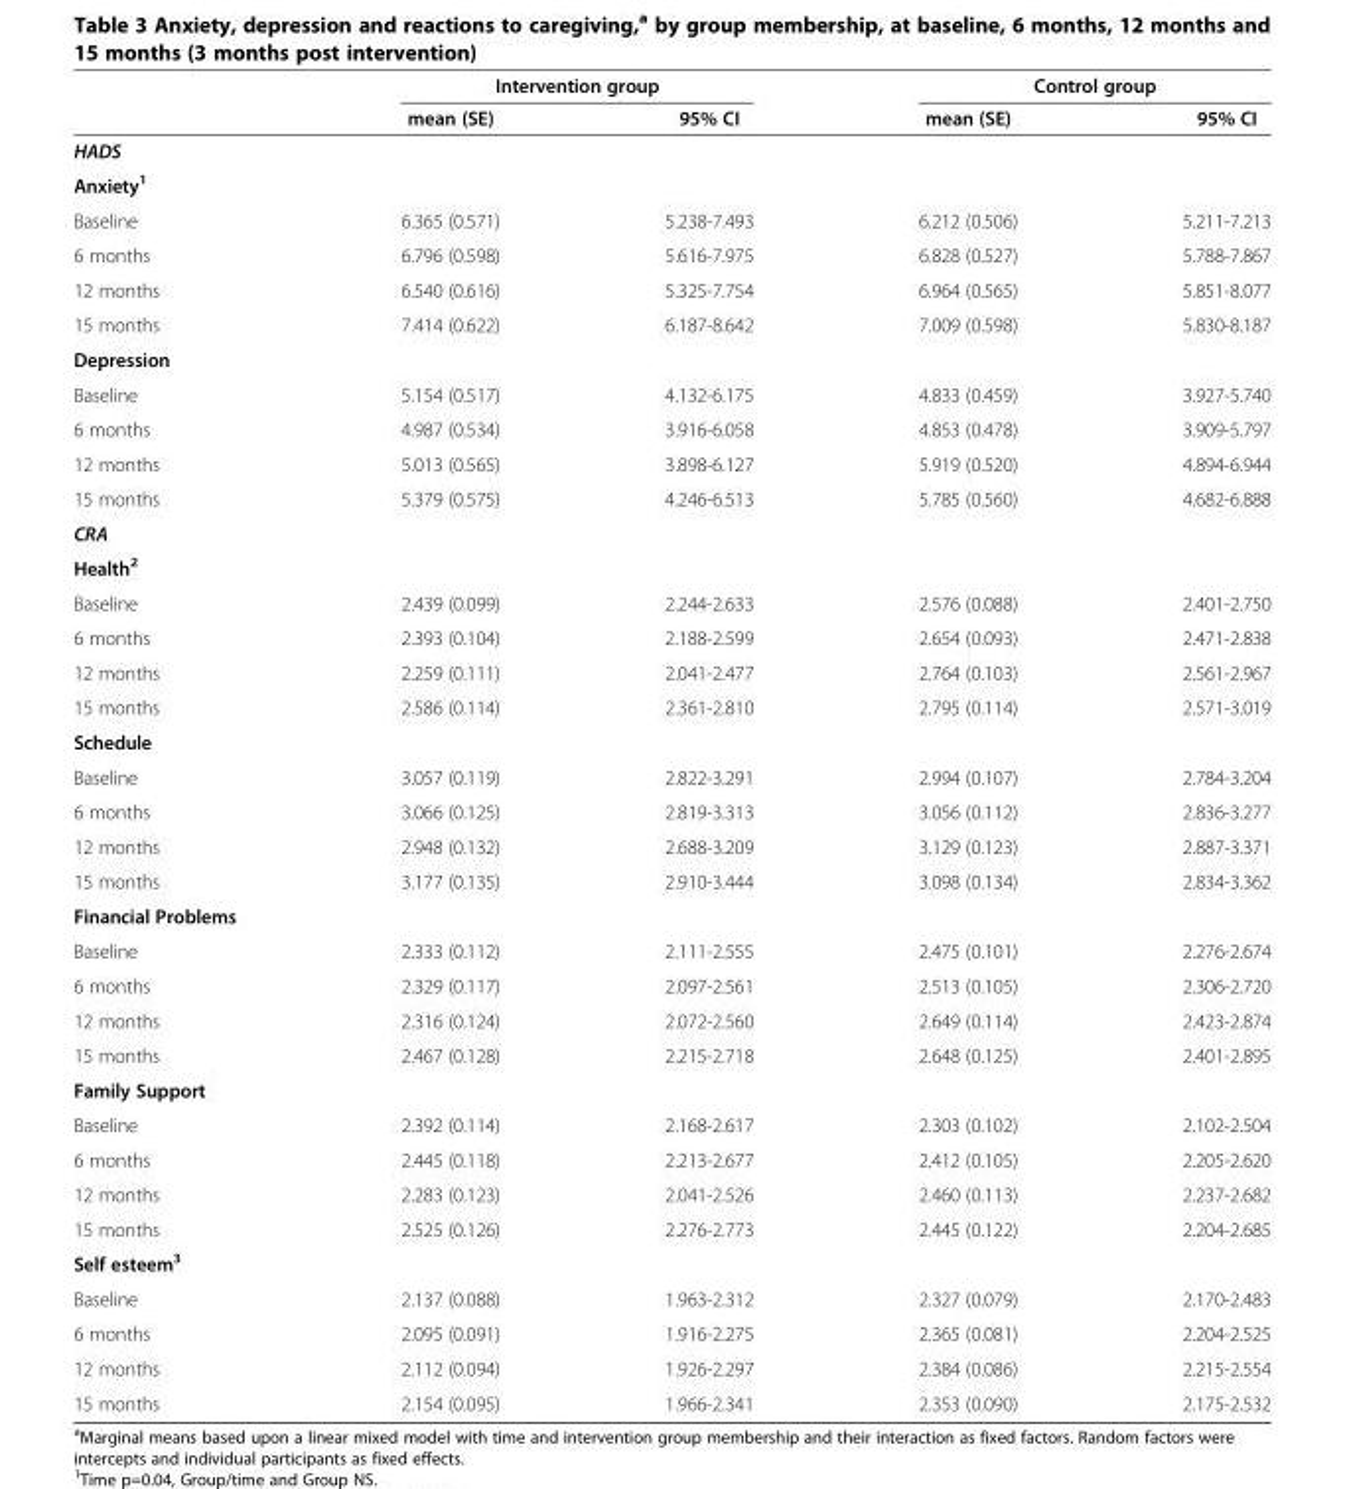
<table><thead><tr><td rowspan="2"></td><td colspan="2">Intervention group</td><td colspan="2">Control group</td></tr><tr><td>mean (SE)</td><td>95% CI</td><td>mean (SE)</td><td>95% CI</td></tr></thead><tbody><tr><td colspan="5">HADS</td></tr><tr><td colspan="5">Anxiety<sup>1</sup></td></tr><tr><td>Baseline</td><td>6.365 (0.571)</td><td>5.238-7.493</td><td>6.212 (0.506)</td><td>5.211-7.213</td></tr><tr><td>6 months</td><td>6.796 (0.598)</td><td>5.616-7.975</td><td>6.828 (0.527)</td><td>5.788-7.867</td></tr><tr><td>12 months</td><td>6.540 (0.616)</td><td>5.325-7.754</td><td>6.964 (0.565)</td><td>5.851-8.077</td></tr><tr><td>15 months</td><td>7.414 (0.622)</td><td>6.187-8.642</td><td>7.009 (0.598)</td><td>5.830-8.187</td></tr><tr><td colspan="5">Depression</td></tr><tr><td>Baseline</td><td>5.154 (0.517)</td><td>4.132-6.175</td><td>4.833 (0.459)</td><td>3.927-5.740</td></tr><tr><td>6 months</td><td>4.987 (0.534)</td><td>3.916-6.058</td><td>4.853 (0.478)</td><td>3.909-5.797</td></tr><tr><td>12 months</td><td>5.013 (0.565)</td><td>3.898-6.127</td><td>5.919 (0.520)</td><td>4.894-6.944</td></tr><tr><td>15 months</td><td>5.379 (0.575)</td><td>4.246-6.513</td><td>5.785 (0.560)</td><td>4.682-6.888</td></tr><tr><td colspan="5">CRA</td></tr><tr><td colspan="5">Health<sup>2</sup></td></tr><tr><td>Baseline</td><td>2.439 (0.099)</td><td>2.244-2.633</td><td>2.576 (0.088)</td><td>2.401-2.750</td></tr><tr><td>6 months</td><td>2.393 (0.104)</td><td>2.188-2.599</td><td>2.654 (0.093)</td><td>2.471-2.838</td></tr><tr><td>12 months</td><td>2.259 (0.111)</td><td>2.041-2.477</td><td>2.764 (0.103)</td><td>2.561-2.967</td></tr><tr><td>15 months</td><td>2.586 (0.114)</td><td>2.361-2.810</td><td>2.795 (0.114)</td><td>2.571-3.019</td></tr><tr><td colspan="5">Schedule</td></tr><tr><td>Baseline</td><td>3.057 (0.119)</td><td>2.822-3.291</td><td>2.994 (0.107)</td><td>2.784-3.204</td></tr><tr><td>6 months</td><td>3.066 (0.125)</td><td>2.819-3.313</td><td>3.056 (0.112)</td><td>2.836-3.277</td></tr><tr><td>12 months</td><td>2.948 (0.132)</td><td>2.688-3.209</td><td>3.129 (0.123)</td><td>2.887-3.371</td></tr><tr><td>15 months</td><td>3.177 (0.135)</td><td>2.910-3.444</td><td>3.098 (0.134)</td><td>2.834-3.362</td></tr><tr><td colspan="5">Financial Problems</td></tr><tr><td>Baseline</td><td>2.333 (0.112)</td><td>2.111-2.555</td><td>2.475 (0.101)</td><td>2.276-2.674</td></tr><tr><td>6 months</td><td>2.329 (0.117)</td><td>2.097-2.561</td><td>2.513 (0.105)</td><td>2.306-2.720</td></tr><tr><td>12 months</td><td>2.316 (0.124)</td><td>2.072-2.560</td><td>2.649 (0.114)</td><td>2.423-2.874</td></tr><tr><td>15 months</td><td>2.467 (0.128)</td><td>2.215-2.718</td><td>2.648 (0.125)</td><td>2.401-2.895</td></tr><tr><td colspan="5">Family Support</td></tr><tr><td>Baseline</td><td>2.392 (0.114)</td><td>2.168-2.617</td><td>2.303 (0.102)</td><td>2.102-2.504</td></tr><tr><td>6 months</td><td>2.445 (0.118)</td><td>2.213-2.677</td><td>2.412 (0.105)</td><td>2.205-2.620</td></tr><tr><td>12 months</td><td>2.283 (0.123)</td><td>2.041-2.526</td><td>2.460 (0.113)</td><td>2.237-2.682</td></tr><tr><td>15 months</td><td>2.525 (0.126)</td><td>2.276-2.773</td><td>2.445 (0.122)</td><td>2.204-2.685</td></tr><tr><td colspan="5">Self esteem<sup>3</sup></td></tr><tr><td>Baseline</td><td>2.137 (0.088)</td><td>1.963-2.312</td><td>2.327 (0.079)</td><td>2.170-2.483</td></tr><tr><td>6 months</td><td>2.095 (0.091)</td><td>1.916-2.275</td><td>2.365 (0.081)</td><td>2.204-2.525</td></tr><tr><td>12 months</td><td>2.112 (0.094)</td><td>1.926-2.297</td><td>2.384 (0.086)</td><td>2.215-2.554</td></tr><tr><td>15 months</td><td>2.154 (0.095)</td><td>1.966-2.341</td><td>2.353 (0.090)</td><td>2.175-2.532</td></tr></tbody></table>